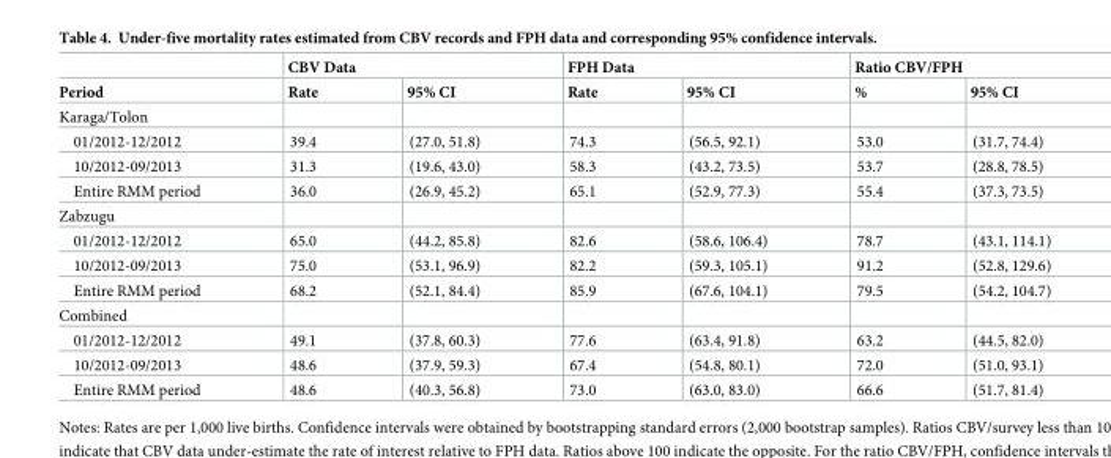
<table><thead><tr><td rowspan="2">Period</td><td colspan="2">CBV Data</td><td colspan="2">FPH Data</td><td colspan="2">Ratio CBV/FPH</td></tr><tr><td>Rate</td><td>95% CI</td><td>Rate</td><td>95% CI</td><td>%</td><td>95% CI</td></tr></thead><tbody><tr><td colspan="7">Karaga/Tolon</td></tr><tr><td>01/2012-12/2012</td><td>39.4</td><td>(27.0, 51.8)</td><td>74.3</td><td>(56.5, 92.1)</td><td>53.0</td><td>(31.7, 74.4)</td></tr><tr><td>10/2012-09/2013</td><td>31.3</td><td>(19.6, 43.0)</td><td>58.3</td><td>(43.2, 73.5)</td><td>53.7</td><td>(28.8, 78.5)</td></tr><tr><td>Entire RMM period</td><td>36.0</td><td>(26.9, 45.2)</td><td>65.1</td><td>(52.9, 77.3)</td><td>55.4</td><td>(37.3, 73.5)</td></tr><tr><td colspan="7">Zabzugu</td></tr><tr><td>01/2012-12/2012</td><td>65.0</td><td>(44.2, 85.8)</td><td>82.6</td><td>(58.6, 106.4)</td><td>78.7</td><td>(43.1, 114.1)</td></tr><tr><td>10/2012-09/2013</td><td>75.0</td><td>(53.1, 96.9)</td><td>82.2</td><td>(59.3, 105.1)</td><td>91.2</td><td>(52.8, 129.6)</td></tr><tr><td>Entire RMM period</td><td>68.2</td><td>(52.1, 84.4)</td><td>85.9</td><td>(67.6, 104.1)</td><td>79.5</td><td>(54.2, 104.7)</td></tr><tr><td colspan="7">Combined</td></tr><tr><td>01/2012-12/2012</td><td>49.1</td><td>(37.8, 60.3)</td><td>77.6</td><td>(63.4, 91.8)</td><td>63.2</td><td>(44.5, 82.0)</td></tr><tr><td>10/2012-09/2013</td><td>48.6</td><td>(37.9, 59.3)</td><td>67.4</td><td>(54.8, 80.1)</td><td>72.0</td><td>(51.0, 93.1)</td></tr><tr><td>Entire RMM period</td><td>48.6</td><td>(40.3, 56.8)</td><td>73.0</td><td>(63.0, 83.0)</td><td>66.6</td><td>(51.7, 81.4)</td></tr></tbody></table>